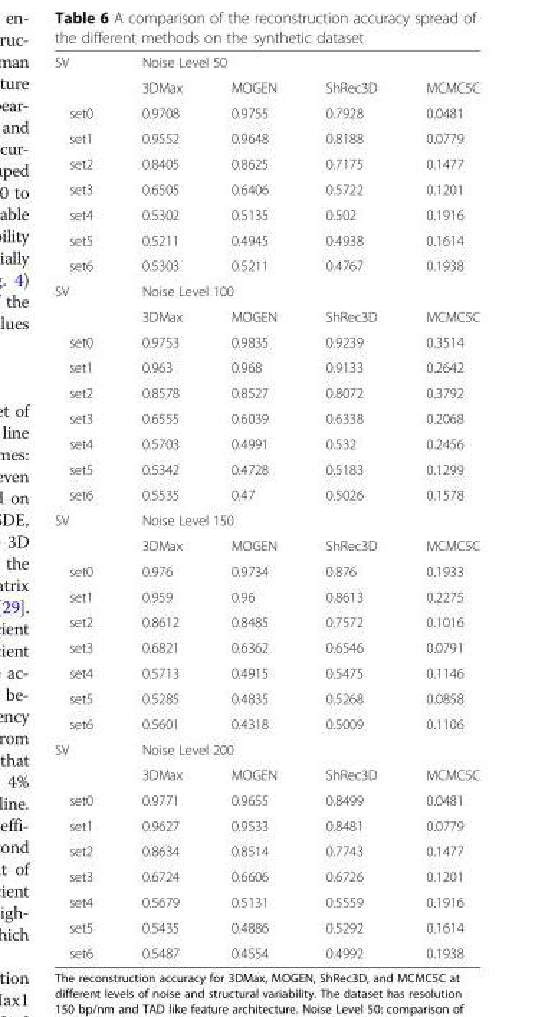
<table><tbody><tr><td rowspan="2">SV</td><td colspan="4">Noise Level 50</td></tr><tr><td>3DMax</td><td>MOGEN</td><td>ShRec3D</td><td>MCMC5C</td></tr><tr><td>set0</td><td>0.9708</td><td>0.9755</td><td>0.7928</td><td>0.0481</td></tr><tr><td>set1</td><td>0.9552</td><td>0.9648</td><td>0.8188</td><td>0.0779</td></tr><tr><td>set2</td><td>0.8405</td><td>0.8625</td><td>0.7175</td><td>0.1477</td></tr><tr><td>set3</td><td>0.6505</td><td>0.6406</td><td>0.5722</td><td>0.1201</td></tr><tr><td>set4</td><td>0.5302</td><td>0.5135</td><td>0.502</td><td>0.1916</td></tr><tr><td>set5</td><td>0.5211</td><td>0.4945</td><td>0.4938</td><td>0.1614</td></tr><tr><td>set6</td><td>0.5303</td><td>0.5211</td><td>0.4767</td><td>0.1938</td></tr><tr><td rowspan="2">SV</td><td colspan="4">Noise Level 100</td></tr><tr><td>3DMax</td><td>MOGEN</td><td>ShRec3D</td><td>MCMC5C</td></tr><tr><td>set0</td><td>0.9753</td><td>0.9835</td><td>0.9239</td><td>0.3514</td></tr><tr><td>set1</td><td>0.963</td><td>0.968</td><td>0.9133</td><td>0.2642</td></tr><tr><td>set2</td><td>0.8578</td><td>0.8527</td><td>0.8072</td><td>0.3792</td></tr><tr><td>set3</td><td>0.6555</td><td>0.6039</td><td>0.6338</td><td>0.2068</td></tr><tr><td>set4</td><td>0.5703</td><td>0.4991</td><td>0.532</td><td>0.2456</td></tr><tr><td>set5</td><td>0.5342</td><td>0.4728</td><td>0.5183</td><td>0.1299</td></tr><tr><td>set6</td><td>0.5535</td><td>0.47</td><td>0.5026</td><td>0.1578</td></tr><tr><td rowspan="2">SV</td><td colspan="4">Noise Level 150</td></tr><tr><td>3DMax</td><td>MOGEN</td><td>ShRec3D</td><td>MCMC5C</td></tr><tr><td>set0</td><td>0.976</td><td>0.9734</td><td>0.876</td><td>0.1933</td></tr><tr><td>set1</td><td>0.959</td><td>0.96</td><td>0.8613</td><td>0.2275</td></tr><tr><td>set2</td><td>0.8612</td><td>0.8485</td><td>0.7572</td><td>0.1016</td></tr><tr><td>set3</td><td>0.6821</td><td>0.6362</td><td>0.6546</td><td>0.0791</td></tr><tr><td>set4</td><td>0.5713</td><td>0.4915</td><td>0.5475</td><td>0.1146</td></tr><tr><td>set5</td><td>0.5285</td><td>0.4835</td><td>0.5268</td><td>0.0858</td></tr><tr><td>set6</td><td>0.5601</td><td>0.4318</td><td>0.5009</td><td>0.1106</td></tr><tr><td rowspan="2">SV</td><td colspan="4">Noise Level 200</td></tr><tr><td>3DMax</td><td>MOGEN</td><td>ShRec3D</td><td>MCMC5C</td></tr><tr><td>set0</td><td>0.9771</td><td>0.9655</td><td>0.8499</td><td>0.0481</td></tr><tr><td>set1</td><td>0.9627</td><td>0.9533</td><td>0.8481</td><td>0.0779</td></tr><tr><td>set2</td><td>0.8634</td><td>0.8514</td><td>0.7743</td><td>0.1477</td></tr><tr><td>set3</td><td>0.6724</td><td>0.6606</td><td>0.6726</td><td>0.1201</td></tr><tr><td>set4</td><td>0.5679</td><td>0.5131</td><td>0.5559</td><td>0.1916</td></tr><tr><td>set5</td><td>0.5435</td><td>0.4886</td><td>0.5292</td><td>0.1614</td></tr><tr><td>set6</td><td>0.5487</td><td>0.4554</td><td>0.4992</td><td>0.1938</td></tr></tbody></table>